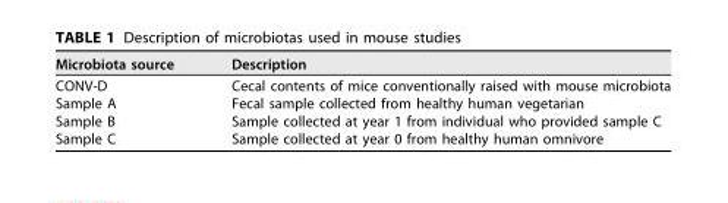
<table><thead><tr><td>Microbiota source</td><td>Description</td></tr></thead><tbody><tr><td>CONV-D</td><td>Cecal contents of mice conventionally raised with mouse microbiota</td></tr><tr><td>Sample A</td><td>Fecal sample collected from healthy human vegetarian</td></tr><tr><td>Sample B</td><td>Sample collected at year 1 from individual who provided sample C</td></tr><tr><td>Sample C</td><td>Sample collected at year 0 from healthy human omnivore</td></tr></tbody></table>